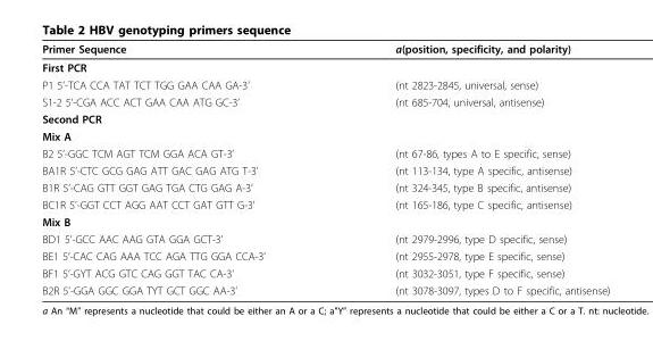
<table><thead><tr><td>Primer Sequence</td><td>a(position, specificity, and polarity)</td></tr></thead><tbody><tr><td colspan="2">First PCR</td></tr><tr><td>P1 5’-TCA CCA TAT TCT TGG GAA CAA GA-3’</td><td>(nt 2823-2845, universal, sense)</td></tr><tr><td>S1-2 5’-CGA ACC ACT GAA CAA ATG GC-3’</td><td>(nt 685-704, universal, antisense)</td></tr><tr><td colspan="2">Second PCR</td></tr><tr><td colspan="2">Mix A</td></tr><tr><td>B2 5’-GGC TCM AGT TCM GGA ACA GT-3’</td><td>(nt 67-86, types A to E specific, sense)</td></tr><tr><td>BA1R 5’-CTC GCG GAG ATT GAC GAG ATG T-3’</td><td>(nt 113-134, type A specific, antisense)</td></tr><tr><td>B1R 5’-CAG GTT GGT GAG TGA CTG GAG A-3’</td><td>(nt 324-345, type B specific, antisense)</td></tr><tr><td>BC1R 5’-GGT CCT AGG AAT CCT GAT GTT G-3’</td><td>(nt 165-186, type C specific, antisense)</td></tr><tr><td colspan="2">Mix B</td></tr><tr><td>BD1 5’-GCC AAC AAG GTA GGA GCT-3’</td><td>(nt 2979-2996, type D specific, sense)</td></tr><tr><td>BE1 5’-CAC CAG AAA TCC AGA TTG GGA CCA-3’</td><td>(nt 2955-2978, type E specific, sense)</td></tr><tr><td>BF1 5’-GYT ACG GTC CAG GGT TAC CA-3’</td><td>(nt 3032-3051, type F specific, sense)</td></tr><tr><td>B2R 5’-GGA GGC GGA TYT GCT GGC AA-3’</td><td>(nt 3078-3097, types D to F specific, antisense)</td></tr></tbody></table>